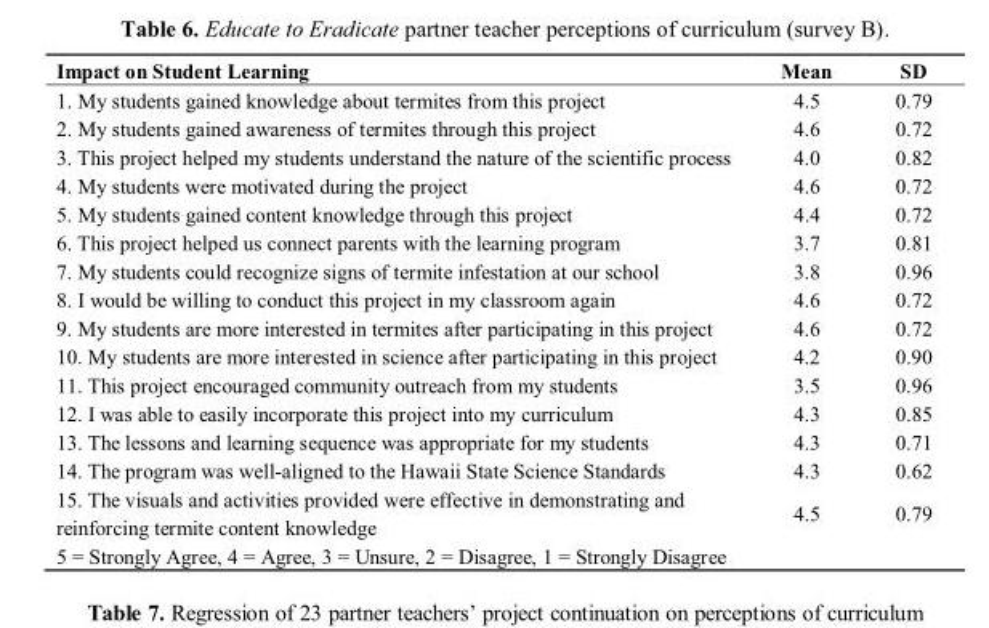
<table><thead><tr><td>Impact on Student Learning</td><td>Mean</td><td>SD</td></tr></thead><tbody><tr><td>1. My students gained knowledge about termites from this project</td><td>4.5</td><td>0.79</td></tr><tr><td>2. My students gained awareness of termites through this project</td><td>4.6</td><td>0.72</td></tr><tr><td>3. This project helped my students understand the nature of the scientific process</td><td>4.0</td><td>0.82</td></tr><tr><td>4. My students were motivated during the project</td><td>4.6</td><td>0.72</td></tr><tr><td>5. My students gained content knowledge through this project</td><td>4.4</td><td>0.72</td></tr><tr><td>6. This project helped us connect parents with the learning program</td><td>3.7</td><td>0.81</td></tr><tr><td>7. My students could recognize signs of termite infestation at our school</td><td>3.8</td><td>0.96</td></tr><tr><td>8. I would be willing to conduct this project in my classroom again</td><td>4.6</td><td>0.72</td></tr><tr><td>9. My students are more interested in termites after participating in this project</td><td>4.6</td><td>0.72</td></tr><tr><td>10. My students are more interested in science after participating in this project</td><td>4.2</td><td>0.90</td></tr><tr><td>11. This project encouraged community outreach from my students</td><td>3.5</td><td>0.96</td></tr><tr><td>12. I was able to easily incorporate this project into my curriculum</td><td>4.3</td><td>0.85</td></tr><tr><td>13. The lessons and learning sequence was appropriate for my students</td><td>4.3</td><td>0.71</td></tr><tr><td>14. The program was well-aligned to the Hawaii State Science Standards</td><td>4.3</td><td>0.62</td></tr><tr><td>15. The visuals and activities provided were effective in demonstrating and reinforcing termite content knowledge</td><td>4.5</td><td>0.79</td></tr><tr><td colspan="3">5 = Strongly Agree, 4 = Agree, 3 = Unsure, 2 = Disagree, 1 = Strongly Disagree</td></tr></tbody></table>